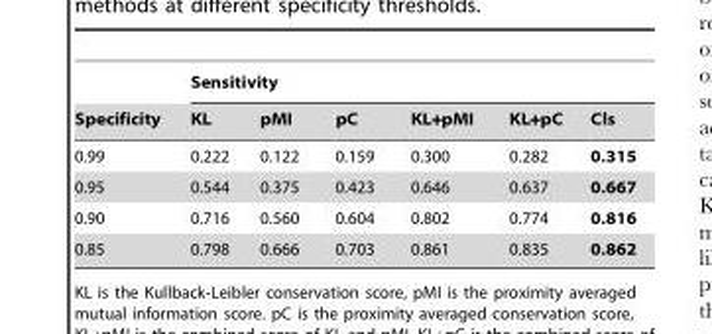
<table><thead><tr><td rowspan="2">Specificity</td><td colspan="6">Sensitivity</td></tr><tr><td>KL</td><td>pMI</td><td>pC</td><td>KL+pMI</td><td>KL+pC</td><td>Cls</td></tr></thead><tbody><tr><td>0.99</td><td>0.222</td><td>0.122</td><td>0.159</td><td>0.300</td><td>0.282</td><td>0.315</td></tr><tr><td>0.95</td><td>0.544</td><td>0.375</td><td>0.423</td><td>0.646</td><td>0.637</td><td>0.667</td></tr><tr><td>0.90</td><td>0.716</td><td>0.560</td><td>0.604</td><td>0.802</td><td>0.774</td><td>0.816</td></tr><tr><td>0.85</td><td>0.798</td><td>0.666</td><td>0.703</td><td>0.861</td><td>0.835</td><td>0.862</td></tr></tbody></table>